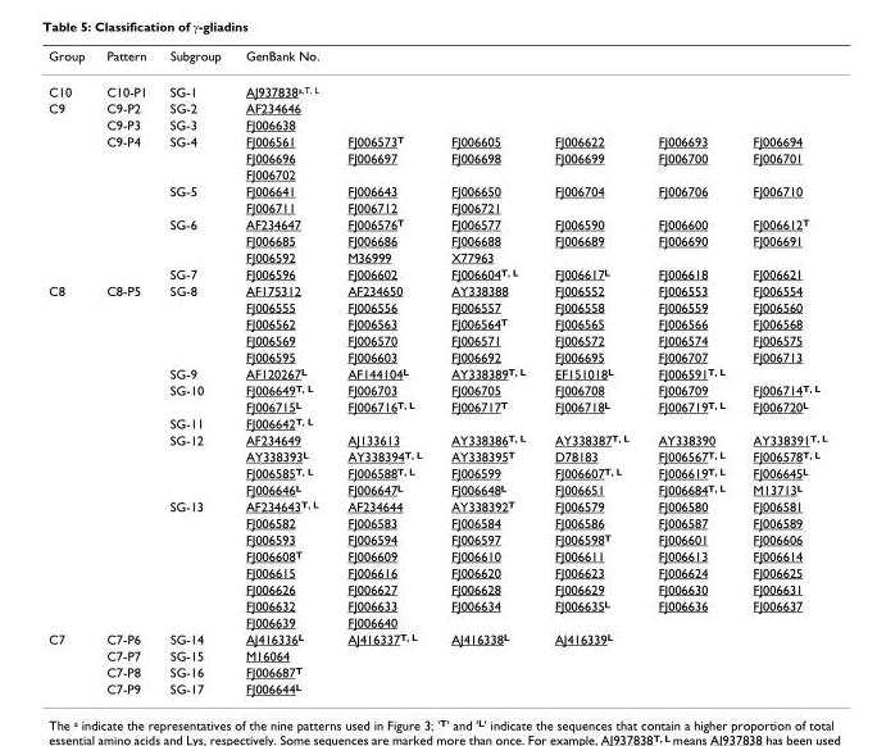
<table><thead><tr><td rowspan="2">Group C10</td><td rowspan="2">Pattern C10-P1</td><td rowspan="2">Subgroup SG-1</td><td colspan="6">GenBank No.</td></tr><tr><td>AJ937838<sup>a,T, L</sup></td><td></td><td></td><td></td><td></td><td></td></tr></thead><tbody><tr><td rowspan="11">C9</td><td>C9-P2</td><td>SG-2</td><td>AF234646</td><td></td><td></td><td></td><td></td><td></td></tr><tr><td>C9-P3</td><td>SG-3</td><td>FJ006638</td><td></td><td></td><td></td><td></td><td></td></tr><tr><td>C9-P4</td><td>SG-4</td><td>FJ006561</td><td>FJ006573<sup>T</sup></td><td>FJ006605</td><td>FJ006622</td><td>FJ006693</td><td>FJ006694</td></tr><tr><td></td><td></td><td>FJ006696</td><td>FJ006697</td><td>FJ006698</td><td>FJ006699</td><td>FJ006700</td><td>FJ006701</td></tr><tr><td></td><td></td><td>FJ006702</td><td></td><td></td><td></td><td></td><td></td></tr><tr><td></td><td>SG-5</td><td>FJ006641</td><td>FJ006643</td><td>FJ006650</td><td>FJ006704</td><td>FJ006706</td><td>FJ006710</td></tr><tr><td></td><td></td><td>FJ006711</td><td>FJ006712</td><td>FJ006721</td><td></td><td></td><td></td></tr><tr><td></td><td>SG-6</td><td>AF234647</td><td>FJ006576<sup>T</sup></td><td>FJ006577</td><td>FJ006590</td><td>FJ006600</td><td>FJ006612<sup>T</sup></td></tr><tr><td></td><td></td><td>FJ006685</td><td>FJ006686</td><td>FJ006688</td><td>FJ006689</td><td>FJ006690</td><td>FJ006691</td></tr><tr><td></td><td></td><td>FJ006592</td><td>M36999</td><td>X77963</td><td></td><td></td><td></td></tr><tr><td></td><td>SG-7</td><td>FJ006596</td><td>FJ006602</td><td>FJ006604<sup>T, L</sup></td><td>FJ006617<sup>L</sup></td><td>FJ006618</td><td>FJ006621</td></tr><tr><td rowspan="21">C8</td><td>C8-P5</td><td>SG-8</td><td>AF175312</td><td>AF234650</td><td>AY338388</td><td>FJ006552</td><td>FJ006553</td><td>FJ006554</td></tr><tr><td></td><td></td><td>FJ006555</td><td>FJ006556</td><td>FJ006557</td><td>FJ006558</td><td>FJ006559</td><td>FJ006560</td></tr><tr><td></td><td></td><td>FJ006562</td><td>FJ006563</td><td>FJ006564<sup>T</sup></td><td>FJ006565</td><td>FJ006566</td><td>FJ006568</td></tr><tr><td></td><td></td><td>FJ006569</td><td>FJ006570</td><td>FJ006571</td><td>FJ006572</td><td>FJ006574</td><td>FJ006575</td></tr><tr><td></td><td></td><td>FJ006595</td><td>FJ006603</td><td>FJ006692</td><td>FJ006695</td><td>FJ006707</td><td>FJ006713</td></tr><tr><td></td><td>SG-9</td><td>AF120267<sup>L</sup></td><td>AF144104<sup>L</sup></td><td>AY338389<sup>T, L</sup></td><td>EF151018<sup>L</sup></td><td>FJ006591<sup>T, L</sup></td><td></td></tr><tr><td></td><td>SG-10</td><td>FJ006649<sup>T, L</sup></td><td>FJ006703</td><td>FJ006705</td><td>FJ006708</td><td>FJ006709</td><td>FJ006714<sup>T, L</sup></td></tr><tr><td></td><td></td><td>FJ006715<sup>L</sup></td><td>FJ006716<sup>T, L</sup></td><td>FJ006717<sup>T</sup></td><td>FJ006718<sup>L</sup></td><td>FJ006719<sup>T, L</sup></td><td>FJ006720<sup>L</sup></td></tr><tr><td></td><td>SG-11</td><td>FJ006642<sup>T, L</sup></td><td></td><td></td><td></td><td></td><td></td></tr><tr><td></td><td>SG-12</td><td>AF234649</td><td>AJ133613</td><td>AY338386<sup>T, L</sup></td><td>AY338387<sup>T, L</sup></td><td>AY338390</td><td>AY338391<sup>T, L</sup></td></tr><tr><td></td><td></td><td>AY338393<sup>L</sup></td><td>AY338394<sup>T, L</sup></td><td>AY338395<sup>T</sup></td><td>D78183</td><td>FJ006567<sup>T, L</sup></td><td>FJ006578<sup>T, L</sup></td></tr><tr><td></td><td></td><td>FJ006585<sup>T, L</sup></td><td>FJ006588<sup>T, L</sup></td><td>FJ006599</td><td>FJ006607<sup>T, L</sup></td><td>FJ006619<sup>T, L</sup></td><td>FJ006645<sup>L</sup></td></tr><tr><td></td><td></td><td>FJ006646<sup>L</sup></td><td>FJ006647<sup>L</sup></td><td>FJ006648<sup>L</sup></td><td>FJ006651</td><td>FJ006684<sup>T, L</sup></td><td>M13713<sup>L</sup></td></tr><tr><td></td><td>SG-13</td><td>AF234643<sup>T, L</sup></td><td>AF234644</td><td>AY338392<sup>T</sup></td><td>FJ006579</td><td>FJ006580</td><td>FJ006581</td></tr><tr><td></td><td></td><td>FJ006582</td><td>FJ006583</td><td>FJ006584</td><td>FJ006586</td><td>FJ006587</td><td>FJ006589</td></tr><tr><td></td><td></td><td>FJ006593</td><td>FJ006594</td><td>FJ006597</td><td>FJ006598<sup>T</sup></td><td>FJ006601</td><td>FJ006606</td></tr><tr><td></td><td></td><td>FJ006608<sup>T</sup></td><td>FJ006609</td><td>FJ006610</td><td>FJ006611</td><td>FJ006613</td><td>FJ006614</td></tr><tr><td></td><td></td><td>FJ006615</td><td>FJ006616</td><td>FJ006620</td><td>FJ006623</td><td>FJ006624</td><td>FJ006625</td></tr><tr><td></td><td></td><td>FJ006626</td><td>FJ006627</td><td>FJ006628</td><td>FJ006629</td><td>FJ006630</td><td>FJ006631</td></tr><tr><td></td><td></td><td>FJ006632</td><td>FJ006633</td><td>FJ006634</td><td>FJ006635<sup>L</sup></td><td>FJ006636</td><td>FJ006637</td></tr><tr><td></td><td></td><td>FJ006639</td><td>FJ006640</td><td></td><td></td><td></td><td></td></tr><tr><td rowspan="4">C7</td><td>C7-P6</td><td>SG-14</td><td>AJ416336<sup>L</sup></td><td>AJ416337<sup>T, L</sup></td><td>AJ416338<sup>L</sup></td><td>AJ416339<sup>L</sup></td><td></td><td></td></tr><tr><td>C7-P7</td><td>SG-15</td><td>M16064</td><td></td><td></td><td></td><td></td><td></td></tr><tr><td>C7-P8</td><td>SG-16</td><td>FJ006687<sup>T</sup></td><td></td><td></td><td></td><td></td><td></td></tr><tr><td>C7-P9</td><td>SG-17</td><td>FJ006644<sup>L</sup></td><td></td><td></td><td></td><td></td><td></td></tr></tbody></table>